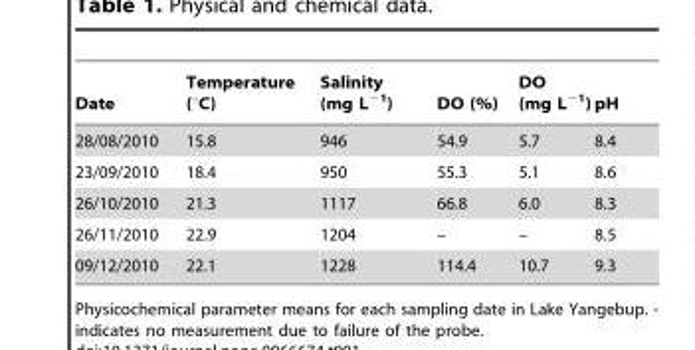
<table><thead><tr><td>Date</td><td>Temperature (°C)</td><td>Salinity (mg L<sup>−1</sup>)</td><td>DO (%)</td><td>DO (mg L<sup>−1</sup>)</td><td>pH</td></tr></thead><tbody><tr><td>28/08/2010</td><td>15.8</td><td>946</td><td>54.9</td><td>5.7</td><td>8.4</td></tr><tr><td>23/09/2010</td><td>18.4</td><td>950</td><td>55.3</td><td>5.1</td><td>8.6</td></tr><tr><td>26/10/2010</td><td>21.3</td><td>1117</td><td>66.8</td><td>6.0</td><td>8.3</td></tr><tr><td>26/11/2010</td><td>22.9</td><td>1204</td><td>–</td><td>–</td><td>8.5</td></tr><tr><td>09/12/2010</td><td>22.1</td><td>1228</td><td>114.4</td><td>10.7</td><td>9.3</td></tr></tbody></table>